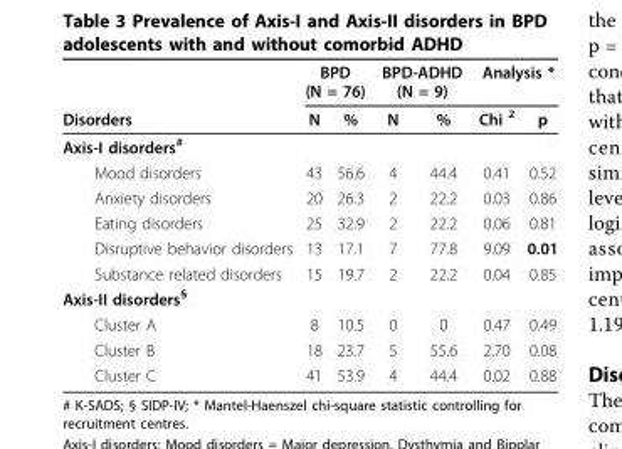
<table><thead><tr><td rowspan="2">Disorders</td><td colspan="2">BPD (N = 76)</td><td colspan="2">BPD-ADHD (N = 9)</td><td colspan="2">Analysis *</td></tr><tr><td>N</td><td>%</td><td>N</td><td>%</td><td>Chi <sup>2</sup></td><td>p</td></tr></thead><tbody><tr><td colspan="7">Axis-I disorders<sup>#</sup></td></tr><tr><td>Mood disorders</td><td>43</td><td>56.6</td><td>4</td><td>44.4</td><td>0.41</td><td>0.52</td></tr><tr><td>Anxiety disorders</td><td>20</td><td>26.3</td><td>2</td><td>22.2</td><td>0.03</td><td>0.86</td></tr><tr><td>Eating disorders</td><td>25</td><td>32.9</td><td>2</td><td>22.2</td><td>0.06</td><td>0.81</td></tr><tr><td>Disruptive behavior disorders</td><td>13</td><td>17.1</td><td>7</td><td>77.8</td><td>9.09</td><td>0.01</td></tr><tr><td>Substance related disorders</td><td>15</td><td>19.7</td><td>2</td><td>22.2</td><td>0.04</td><td>0.85</td></tr><tr><td colspan="7">Axis-II disorders<sup>§</sup></td></tr><tr><td>Cluster A</td><td>8</td><td>10.5</td><td>0</td><td>0</td><td>0.47</td><td>0.49</td></tr><tr><td>Cluster B</td><td>18</td><td>23.7</td><td>5</td><td>55.6</td><td>2.70</td><td>0.08</td></tr><tr><td>Cluster C</td><td>41</td><td>53.9</td><td>4</td><td>44.4</td><td>0.02</td><td>0.88</td></tr></tbody></table>